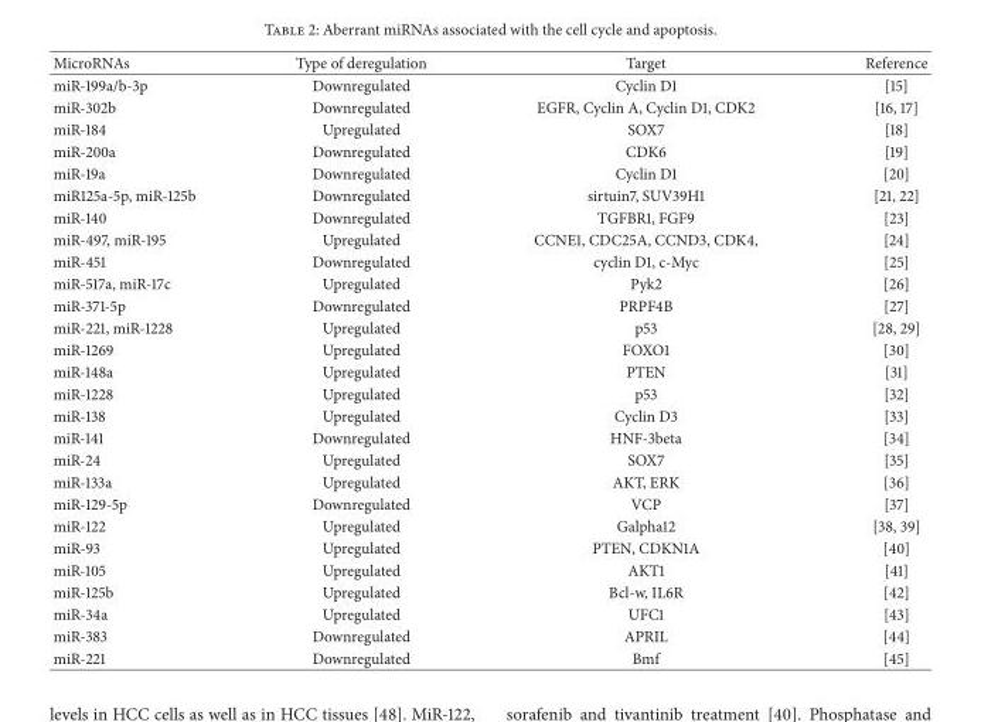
<table><thead><tr><td>MicroRNAs</td><td>Type of deregulation</td><td>Target</td><td>Reference</td></tr></thead><tbody><tr><td>miR-199a/b-3p</td><td>Downregulated</td><td>Cyclin D1</td><td>[15]</td></tr><tr><td>miR-302b</td><td>Downregulated</td><td>EGFR, Cyclin A, Cyclin D1, CDK2</td><td>[16, 17]</td></tr><tr><td>miR-184</td><td>Upregulated</td><td>SOX7</td><td>[18]</td></tr><tr><td>miR-200a</td><td>Downregulated</td><td>CDK6</td><td>[19]</td></tr><tr><td>miR-19a</td><td>Downregulated</td><td>Cyclin D1</td><td>[20]</td></tr><tr><td>miR125a-5p, miR-125b</td><td>Downregulated</td><td>sirtuin7, SUV39H1</td><td>[21, 22]</td></tr><tr><td>miR-140</td><td>Downregulated</td><td>TGFBR1, FGF9</td><td>[23]</td></tr><tr><td>miR-497, miR-195</td><td>Upregulated</td><td>CCNE1, CDC25A, CCND3, CDK4,</td><td>[24]</td></tr><tr><td>miR-451</td><td>Downregulated</td><td>cyclin D1, c-Myc</td><td>[25]</td></tr><tr><td>miR-517a, miR-17c</td><td>Upregulated</td><td>Pyk2</td><td>[26]</td></tr><tr><td>miR-371-5p</td><td>Downregulated</td><td>PRPF4B</td><td>[27]</td></tr><tr><td>miR-221, miR-1228</td><td>Upregulated</td><td>p53</td><td>[28, 29]</td></tr><tr><td>miR-1269</td><td>Upregulated</td><td>FOXO1</td><td>[30]</td></tr><tr><td>miR-148a</td><td>Upregulated</td><td>PTEN</td><td>[31]</td></tr><tr><td>miR-1228</td><td>Upregulated</td><td>p53</td><td>[32]</td></tr><tr><td>miR-138</td><td>Upregulated</td><td>Cyclin D3</td><td>[33]</td></tr><tr><td>miR-141</td><td>Downregulated</td><td>HNF-3beta</td><td>[34]</td></tr><tr><td>miR-24</td><td>Upregulated</td><td>SOX7</td><td>[35]</td></tr><tr><td>miR-133a</td><td>Upregulated</td><td>AKT, ERK</td><td>[36]</td></tr><tr><td>miR-129-5p</td><td>Downregulated</td><td>VCP</td><td>[37]</td></tr><tr><td>miR-122</td><td>Upregulated</td><td>Galpha12</td><td>[38, 39]</td></tr><tr><td>miR-93</td><td>Upregulated</td><td>PTEN, CDKN1A</td><td>[40]</td></tr><tr><td>miR-105</td><td>Upregulated</td><td>AKT1</td><td>[41]</td></tr><tr><td>miR-125b</td><td>Upregulated</td><td>Bcl-w, IL6R</td><td>[42]</td></tr><tr><td>miR-34a</td><td>Upregulated</td><td>UFC1</td><td>[43]</td></tr><tr><td>miR-383</td><td>Downregulated</td><td>APRIL</td><td>[44]</td></tr><tr><td>miR-221</td><td>Downregulated</td><td>Bmf</td><td>[45]</td></tr></tbody></table>